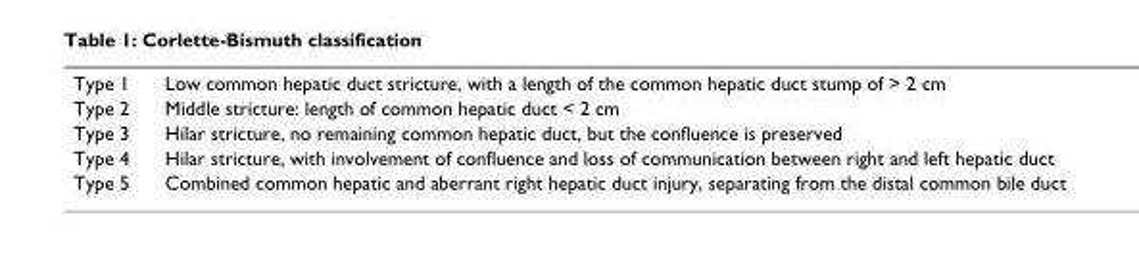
<table><tbody><tr><td>Type 1</td><td>Low common hepatic duct stricture, with a length of the common hepatic duct stump of &gt; 2 cm</td></tr><tr><td>Type 2</td><td>Middle stricture: length of common hepatic duct &lt; 2 cm</td></tr><tr><td>Type 3</td><td>Hilar stricture, no remaining common hepatic duct, but the confluence is preserved</td></tr><tr><td>Type 4</td><td>Hilar stricture, with involvement of confluence and loss of communication between right and left hepatic duct</td></tr><tr><td>Type 5</td><td>Combined common hepatic and aberrant right hepatic duct injury, separating from the distal common bile duct</td></tr></tbody></table>